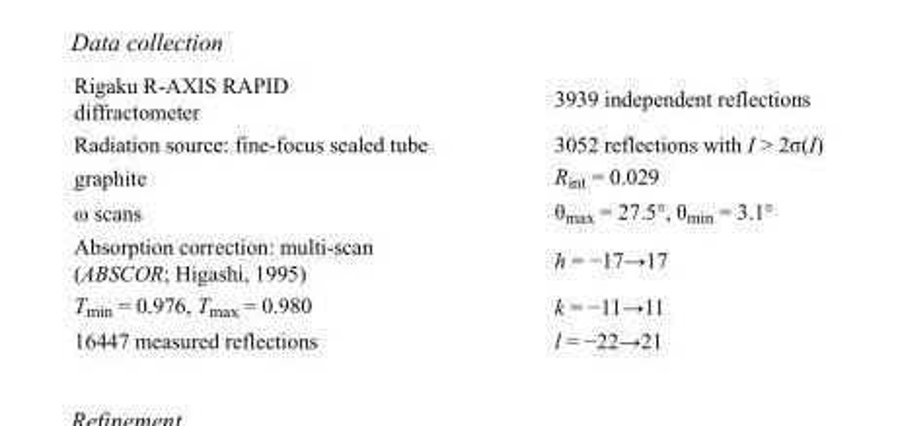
<table><tbody><tr><td>Rigaku R-AXIS RAPID diffractometer</td><td>3939 independent reflections</td></tr><tr><td>Radiation source: fine-focus sealed tube</td><td>3052 reflections with I &gt; 2σ(I)</td></tr><tr><td>graphite</td><td>R<sub>int</sub> = 0.029</td></tr><tr><td>ω scans</td><td>θ<sub>max</sub> = 27.5°, θ<sub>min</sub> = 3.1°</td></tr><tr><td>Absorption correction: multi-scan (ABSCOR; Higashi, 1995)</td><td>h = −17→17</td></tr><tr><td>T<sub>min</sub> = 0.976, T<sub>max</sub> = 0.980</td><td>k = −11→11</td></tr><tr><td>16447 measured reflections</td><td>l = −22→21</td></tr></tbody></table>